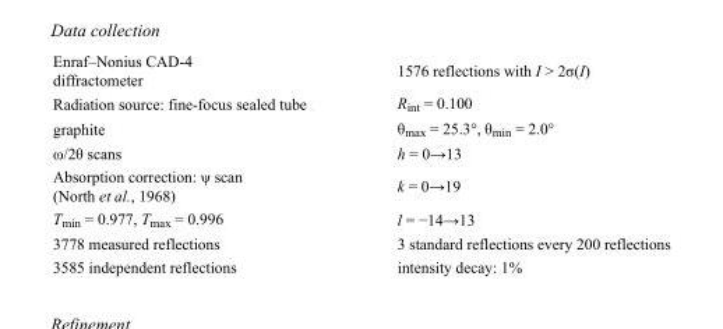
<table><tbody><tr><td>Enraf–Nonius CAD-4 diffractometer</td><td>1576 reflections with I &gt; 2σ(I)</td></tr><tr><td>Radiation source: fine-focus sealed tube</td><td>R<sub>int</sub> = 0.100</td></tr><tr><td>graphite</td><td>θ<sub>max</sub> = 25.3°, θ<sub>min</sub> = 2.0°</td></tr><tr><td>ω/2θ scans</td><td>h = 0→13</td></tr><tr><td>Absorption correction: ψ scan (North et al., 1968)</td><td>k = 0→19</td></tr><tr><td>T<sub>min</sub> = 0.977, T<sub>max</sub> = 0.996</td><td>l = −14→13</td></tr><tr><td>3778 measured reflections</td><td>3 standard reflections every 200 reflections</td></tr><tr><td>3585 independent reflections</td><td>intensity decay: 1%</td></tr></tbody></table>